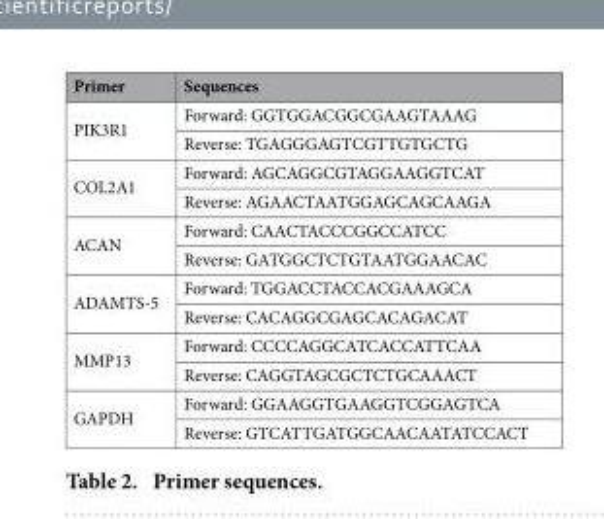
<table><thead><tr><td>Primer</td><td>Sequences</td></tr></thead><tbody><tr><td rowspan="2">PIK3R1</td><td>Forward: GGTGGACGGCGAAGTAAAG</td></tr><tr><td>Reverse: TGAGGGAGTCGTTGTGCTG</td></tr><tr><td rowspan="2">COL2A1</td><td>Forward: AGCAGGCGTAGGAAGGTCAT</td></tr><tr><td>Reverse: AGAACTAATGGAGCAGCAAGA</td></tr><tr><td rowspan="2">ACAN</td><td>Forward: CAACTACCCGGCCATCC</td></tr><tr><td>Reverse: GATGGCTCTGTAATGGAACAC</td></tr><tr><td rowspan="2">ADAMTS-5</td><td>Forward: TGGACCTACCACGAAAGCA</td></tr><tr><td>Reverse: CACAGGCGAGCACAGACAT</td></tr><tr><td rowspan="2">MMP13</td><td>Forward: CCCCAGGCATCACCATTCAA</td></tr><tr><td>Reverse: CAGGTAGCGCTCTGCAAACT</td></tr><tr><td rowspan="2">GAPDH</td><td>Forward: GGAAGGTGAAGGTCGGAGTCA</td></tr><tr><td>Reverse: GTCATTGATGGCAACAATATCCACT</td></tr></tbody></table>